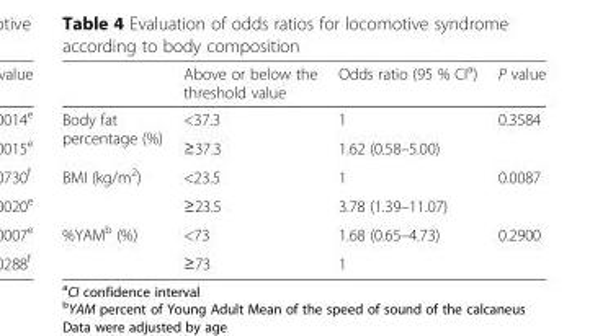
<table><thead><tr><td></td><td>Above or below the threshold value</td><td>Odds ratio (95 % CI<sup>a</sup>)</td><td>P value</td></tr></thead><tbody><tr><td rowspan="2">Body fat percentage (%)</td><td>&lt;37.3</td><td>1</td><td>0.3584</td></tr><tr><td>≥37.3</td><td>1.62 (0.58–5.00)</td><td></td></tr><tr><td rowspan="2">BMI (kg/m<sup>2</sup>)</td><td>&lt;23.5</td><td>1</td><td>0.0087</td></tr><tr><td>≥23.5</td><td>3.78 (1.39–11.07)</td><td></td></tr><tr><td rowspan="2">%YAM<sup>b</sup> (%)</td><td>&lt;73</td><td>1.68 (0.65–4.73)</td><td>0.2900</td></tr><tr><td>≥73</td><td>1</td><td></td></tr></tbody></table>